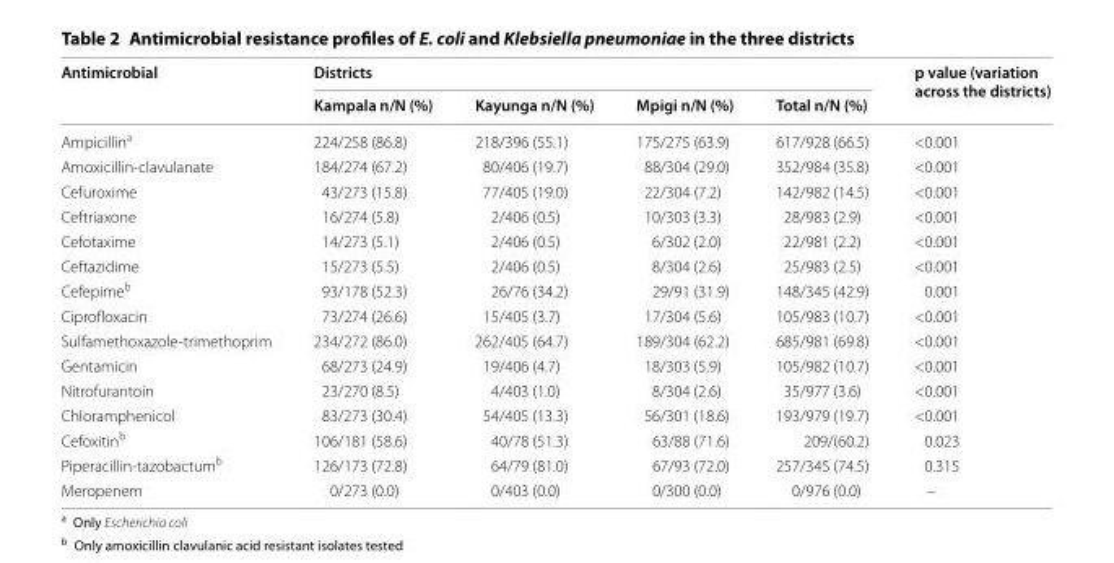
<table><thead><tr><td rowspan="2">Antimicrobial</td><td colspan="4">Districts</td><td rowspan="2">p value (variation across the districts)</td></tr><tr><td>Kampala n/N (%)</td><td>Kayunga n/N (%)</td><td>Mpigi n/N (%)</td><td>Total n/N (%)</td></tr></thead><tbody><tr><td>Ampicillin<sup>a</sup></td><td>224/258 (86.8)</td><td>218/396 (55.1)</td><td>175/275 (63.9)</td><td>617/928 (66.5)</td><td>&lt;0.001</td></tr><tr><td>Amoxicillin-clavulanate</td><td>184/274 (67.2)</td><td>80/406 (19.7)</td><td>88/304 (29.0)</td><td>352/984 (35.8)</td><td>&lt;0.001</td></tr><tr><td>Cefuroxime</td><td>43/273 (15.8)</td><td>77/405 (19.0)</td><td>22/304 (7.2)</td><td>142/982 (14.5)</td><td>&lt;0.001</td></tr><tr><td>Ceftriaxone</td><td>16/274 (5.8)</td><td>2/406 (0.5)</td><td>10/303 (3.3)</td><td>28/983 (2.9)</td><td>&lt;0.001</td></tr><tr><td>Cefotaxime</td><td>14/273 (5.1)</td><td>2/406 (0.5)</td><td>6/302 (2.0)</td><td>22/981 (2.2)</td><td>&lt;0.001</td></tr><tr><td>Ceftazidime</td><td>15/273 (5.5)</td><td>2/406 (0.5)</td><td>8/304 (2.6)</td><td>25/983 (2.5)</td><td>&lt;0.001</td></tr><tr><td>Cefepime<sup>b</sup></td><td>93/178 (52.3)</td><td>26/76 (34.2)</td><td>29/91 (31.9)</td><td>148/345 (42.9)</td><td>0.001</td></tr><tr><td>Ciprofloxacin</td><td>73/274 (26.6)</td><td>15/405 (3.7)</td><td>17/304 (5.6)</td><td>105/983 (10.7)</td><td>&lt;0.001</td></tr><tr><td>Sulfamethoxazole-trimethoprim</td><td>234/272 (86.0)</td><td>262/405 (64.7)</td><td>189/304 (62.2)</td><td>685/981 (69.8)</td><td>&lt;0.001</td></tr><tr><td>Gentamicin</td><td>68/273 (24.9)</td><td>19/406 (4.7)</td><td>18/303 (5.9)</td><td>105/982 (10.7)</td><td>&lt;0.001</td></tr><tr><td>Nitrofurantoin</td><td>23/270 (8.5)</td><td>4/403 (1.0)</td><td>8/304 (2.6)</td><td>35/977 (3.6)</td><td>&lt;0.001</td></tr><tr><td>Chloramphenicol</td><td>83/273 (30.4)</td><td>54/405 (13.3)</td><td>56/301 (18.6)</td><td>193/979 (19.7)</td><td>&lt;0.001</td></tr><tr><td>Cefoxitin<sup>b</sup></td><td>106/181 (58.6)</td><td>40/78 (51.3)</td><td>63/88 (71.6)</td><td>209/(60.2)</td><td>0.023</td></tr><tr><td>Piperacillin-tazobactum<sup>b</sup></td><td>126/173 (72.8)</td><td>64/79 (81.0)</td><td>67/93 (72.0)</td><td>257/345 (74.5)</td><td>0.315</td></tr><tr><td>Meropenem</td><td>0/273 (0.0)</td><td>0/403 (0.0)</td><td>0/300 (0.0)</td><td>0/976 (0.0)</td><td>–</td></tr></tbody></table>